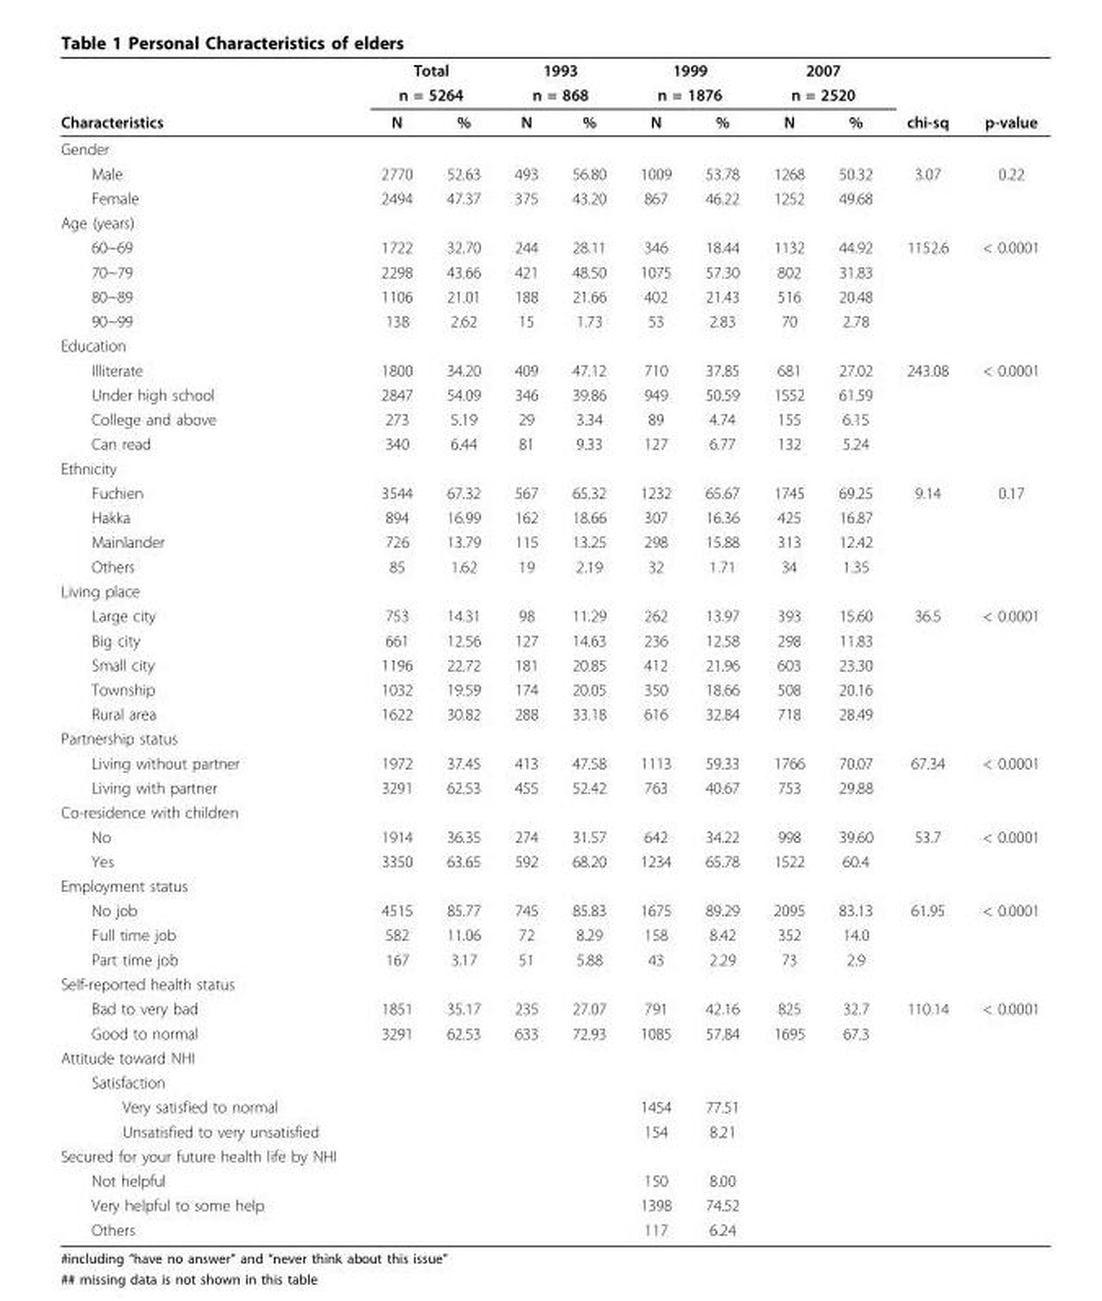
<table><thead><tr><td rowspan="3">Characteristics</td><td rowspan="2" colspan="2">Total n = 5264</td><td rowspan="2" colspan="2">1993 n = 868</td><td rowspan="2" colspan="2">1999 n = 1876</td><td rowspan="2" colspan="2">2007 n = 2520</td><td rowspan="3">chi-sq</td><td rowspan="3">p-value</td></tr><tr></tr><tr><td>N</td><td>%</td><td>N</td><td>%</td><td>N</td><td>%</td><td>N</td><td>%</td></tr></thead><tbody><tr><td colspan="11">Gender</td></tr><tr><td>Male</td><td>2770</td><td>52.63</td><td>493</td><td>56.80</td><td>1009</td><td>53.78</td><td>1268</td><td>50.32</td><td>3.07</td><td>0.22</td></tr><tr><td>Female</td><td>2494</td><td>47.37</td><td>375</td><td>43.20</td><td>867</td><td>46.22</td><td>1252</td><td>49.68</td><td></td><td></td></tr><tr><td colspan="11">Age (years)</td></tr><tr><td>60~69</td><td>1722</td><td>32.70</td><td>244</td><td>28.11</td><td>346</td><td>18.44</td><td>1132</td><td>44.92</td><td>1152.6</td><td>&lt; 0.0001</td></tr><tr><td>70~79</td><td>2298</td><td>43.66</td><td>421</td><td>48.50</td><td>1075</td><td>57.30</td><td>802</td><td>31.83</td><td></td><td></td></tr><tr><td>80~89</td><td>1106</td><td>21.01</td><td>188</td><td>21.66</td><td>402</td><td>21.43</td><td>516</td><td>20.48</td><td></td><td></td></tr><tr><td>90~99</td><td>138</td><td>2.62</td><td>15</td><td>1.73</td><td>53</td><td>2.83</td><td>70</td><td>2.78</td><td></td><td></td></tr><tr><td colspan="11">Education</td></tr><tr><td>Illiterate</td><td>1800</td><td>34.20</td><td>409</td><td>47.12</td><td>710</td><td>37.85</td><td>681</td><td>27.02</td><td>243.08</td><td>&lt; 0.0001</td></tr><tr><td>Under high school</td><td>2847</td><td>54.09</td><td>346</td><td>39.86</td><td>949</td><td>50.59</td><td>1552</td><td>61.59</td><td></td><td></td></tr><tr><td>College and above</td><td>273</td><td>5.19</td><td>29</td><td>3.34</td><td>89</td><td>4.74</td><td>155</td><td>6.15</td><td></td><td></td></tr><tr><td>Can read</td><td>340</td><td>6.44</td><td>81</td><td>9.33</td><td>127</td><td>6.77</td><td>132</td><td>5.24</td><td></td><td></td></tr><tr><td colspan="11">Ethnicity</td></tr><tr><td>Fuchien</td><td>3544</td><td>67.32</td><td>567</td><td>65.32</td><td>1232</td><td>65.67</td><td>1745</td><td>69.25</td><td>9.14</td><td>0.17</td></tr><tr><td>Hakka</td><td>894</td><td>16.99</td><td>162</td><td>18.66</td><td>307</td><td>16.36</td><td>425</td><td>16.87</td><td></td><td></td></tr><tr><td>Mainlander</td><td>726</td><td>13.79</td><td>115</td><td>13.25</td><td>298</td><td>15.88</td><td>313</td><td>12.42</td><td></td><td></td></tr><tr><td>Others</td><td>85</td><td>1.62</td><td>19</td><td>2.19</td><td>32</td><td>1.71</td><td>34</td><td>1.35</td><td></td><td></td></tr><tr><td colspan="11">Living place</td></tr><tr><td>Large city</td><td>753</td><td>14.31</td><td>98</td><td>11.29</td><td>262</td><td>13.97</td><td>393</td><td>15.60</td><td>36.5</td><td>&lt; 0.0001</td></tr><tr><td>Big city</td><td>661</td><td>12.56</td><td>127</td><td>14.63</td><td>236</td><td>12.58</td><td>298</td><td>11.83</td><td></td><td></td></tr><tr><td>Small city</td><td>1196</td><td>22.72</td><td>181</td><td>20.85</td><td>412</td><td>21.96</td><td>603</td><td>23.30</td><td></td><td></td></tr><tr><td>Township</td><td>1032</td><td>19.59</td><td>174</td><td>20.05</td><td>350</td><td>18.66</td><td>508</td><td>20.16</td><td></td><td></td></tr><tr><td>Rural area</td><td>1622</td><td>30.82</td><td>288</td><td>33.18</td><td>616</td><td>32.84</td><td>718</td><td>28.49</td><td></td><td></td></tr><tr><td colspan="11">Partnership status</td></tr><tr><td>Living without partner</td><td>1972</td><td>37.45</td><td>413</td><td>47.58</td><td>1113</td><td>59.33</td><td>1766</td><td>70.07</td><td>67.34</td><td>&lt; 0.0001</td></tr><tr><td>Living with partner</td><td>3291</td><td>62.53</td><td>455</td><td>52.42</td><td>763</td><td>40.67</td><td>753</td><td>29.88</td><td></td><td></td></tr><tr><td colspan="11">Co-residence with children</td></tr><tr><td>No</td><td>1914</td><td>36.35</td><td>274</td><td>31.57</td><td>642</td><td>34.22</td><td>998</td><td>39.60</td><td>53.7</td><td>&lt; 0.0001</td></tr><tr><td>Yes</td><td>3350</td><td>63.65</td><td>592</td><td>68.20</td><td>1234</td><td>65.78</td><td>1522</td><td>60.4</td><td></td><td></td></tr><tr><td colspan="11">Employment status</td></tr><tr><td>No job</td><td>4515</td><td>85.77</td><td>745</td><td>85.83</td><td>1675</td><td>89.29</td><td>2095</td><td>83.13</td><td>61.95</td><td>&lt; 0.0001</td></tr><tr><td>Full time job</td><td>582</td><td>11.06</td><td>72</td><td>8.29</td><td>158</td><td>8.42</td><td>352</td><td>14.0</td><td></td><td></td></tr><tr><td>Part time job</td><td>167</td><td>3.17</td><td>51</td><td>5.88</td><td>43</td><td>2.29</td><td>73</td><td>2.9</td><td></td><td></td></tr><tr><td colspan="11">Self-reported health status</td></tr><tr><td>Bad to very bad</td><td>1851</td><td>35.17</td><td>235</td><td>27.07</td><td>791</td><td>42.16</td><td>825</td><td>32.7</td><td>110.14</td><td>&lt; 0.0001</td></tr><tr><td>Good to normal</td><td>3291</td><td>62.53</td><td>633</td><td>72.93</td><td>1085</td><td>57.84</td><td>1695</td><td>67.3</td><td></td><td></td></tr><tr><td colspan="11">Attitude toward NHI</td></tr><tr><td colspan="11">Satisfaction</td></tr><tr><td>Very satisfied to normal</td><td></td><td></td><td></td><td></td><td>1454</td><td>77.51</td><td></td><td></td><td></td><td></td></tr><tr><td>Unsatisfied to very unsatisfied</td><td></td><td></td><td></td><td></td><td>154</td><td>8.21</td><td></td><td></td><td></td><td></td></tr><tr><td colspan="11">Secured for your future health life by NHI</td></tr><tr><td>Not helpful</td><td></td><td></td><td></td><td></td><td>150</td><td>8.00</td><td></td><td></td><td></td><td></td></tr><tr><td>Very helpful to some help</td><td></td><td></td><td></td><td></td><td>1398</td><td>74.52</td><td></td><td></td><td></td><td></td></tr><tr><td>Others</td><td></td><td></td><td></td><td></td><td>117</td><td>6.24</td><td></td><td></td><td></td><td></td></tr></tbody></table>